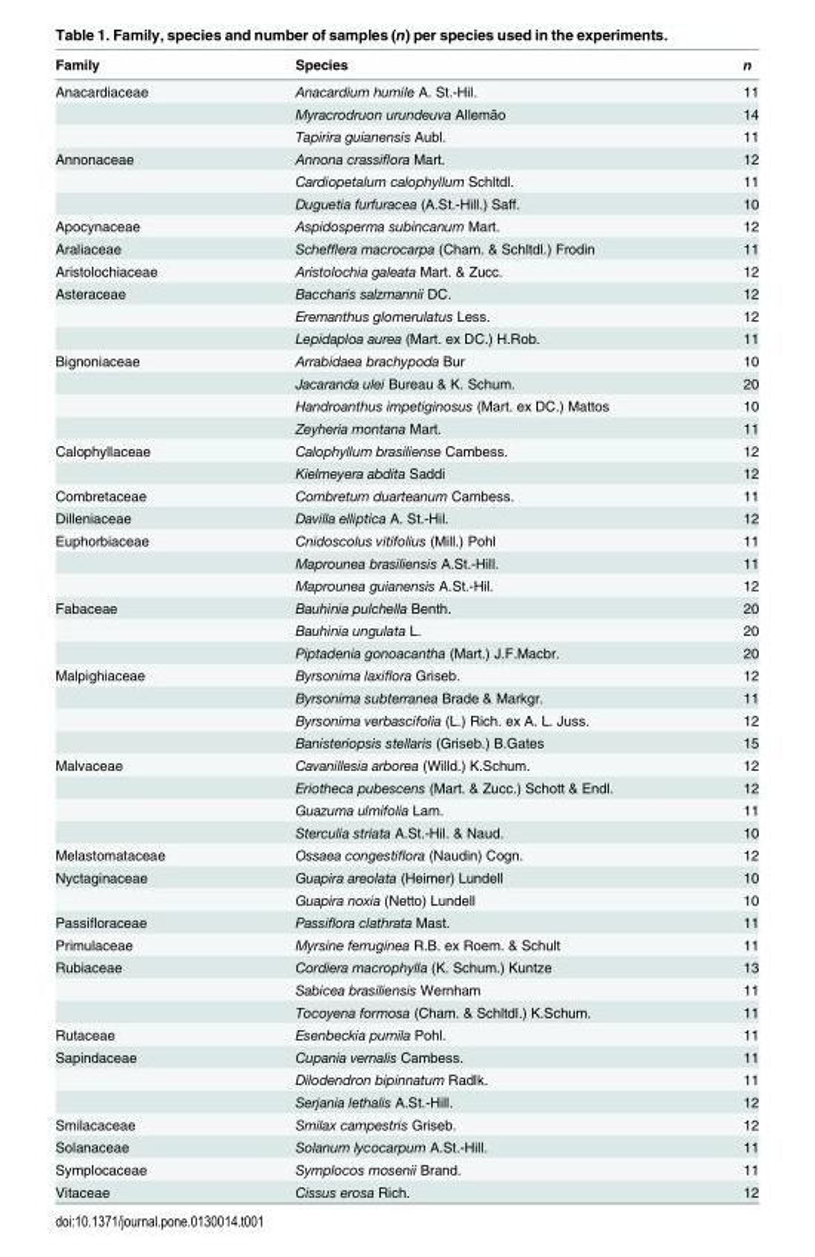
<table><thead><tr><td>Family</td><td>Species</td><td>n</td></tr></thead><tbody><tr><td rowspan="3">Anacardiaceae</td><td>Anacardium humile A. St.-Hil.</td><td>11</td></tr><tr><td>Myracrodruon urundeuva Allemão</td><td>14</td></tr><tr><td>Tapirira guianensis Aubl.</td><td>11</td></tr><tr><td rowspan="3">Annonaceae</td><td>Annona crassiflora Mart.</td><td>12</td></tr><tr><td>Cardiopetalum calophyllum Schltdl.</td><td>11</td></tr><tr><td>Duguetia furfuracea (A.St.-Hill.) Saff.</td><td>10</td></tr><tr><td>Apocynaceae</td><td>Aspidosperma subincanum Mart.</td><td>12</td></tr><tr><td>Araliaceae</td><td>Schefflera macrocarpa (Cham. &amp; Schltdl.) Frodin</td><td>11</td></tr><tr><td>Aristolochiaceae</td><td>Aristolochia galeata Mart. &amp; Zucc.</td><td>12</td></tr><tr><td rowspan="3">Asteraceae</td><td>Baccharis salzmannii DC.</td><td>12</td></tr><tr><td>Eremanthus glomerulatus Less.</td><td>12</td></tr><tr><td>Lepidaploa aurea (Mart. ex DC.) H.Rob.</td><td>11</td></tr><tr><td rowspan="4">Bignoniaceae</td><td>Arrabidaea brachypoda Bur</td><td>10</td></tr><tr><td>Jacaranda ulei Bureau &amp; K. Schum.</td><td>20</td></tr><tr><td>Handroanthus impetiginosus (Mart. ex DC.) Mattos</td><td>10</td></tr><tr><td>Zeyheria montana Mart.</td><td>11</td></tr><tr><td rowspan="2">Calophyllaceae</td><td>Calophyllum brasiliense Cambess.</td><td>12</td></tr><tr><td>Kielmeyera abdita Saddi</td><td>12</td></tr><tr><td>Combretaceae</td><td>Combretum duarteanum Cambess.</td><td>11</td></tr><tr><td>Dilleniaceae</td><td>Davilla elliptica A. St.-Hil.</td><td>12</td></tr><tr><td rowspan="3">Euphorbiaceae</td><td>Cnidoscolus vitifolius (Mill.) Pohl</td><td>11</td></tr><tr><td>Maprounea brasiliensis A.St.-Hill.</td><td>11</td></tr><tr><td>Maprounea guianensis A.St.-Hil.</td><td>12</td></tr><tr><td rowspan="3">Fabaceae</td><td>Bauhinia pulchella Benth.</td><td>20</td></tr><tr><td>Bauhinia ungulata L.</td><td>20</td></tr><tr><td>Piptadenia gonoacantha (Mart.) J.F.Macbr.</td><td>20</td></tr><tr><td rowspan="4">Malpighiaceae</td><td>Byrsonima laxiflora Griseb.</td><td>12</td></tr><tr><td>Byrsonima subterranea Brade &amp; Markgr.</td><td>11</td></tr><tr><td>Byrsonima verbascifolia (L.) Rich. ex A. L. Juss.</td><td>12</td></tr><tr><td>Banisteriopsis stellaris (Griseb.) B.Gates</td><td>15</td></tr><tr><td rowspan="4">Malvaceae</td><td>Cavanillesia arborea (Willd.) K.Schum.</td><td>12</td></tr><tr><td>Eriotheca pubescens (Mart. &amp; Zucc.) Schott &amp; Endl.</td><td>12</td></tr><tr><td>Guazuma ulmifolia Lam.</td><td>11</td></tr><tr><td>Sterculia striata A.St.-Hil. &amp; Naud.</td><td>10</td></tr><tr><td>Melastomataceae</td><td>Ossaea congestiflora (Naudin) Cogn.</td><td>12</td></tr><tr><td rowspan="2">Nyctaginaceae</td><td>Guapira areolata (Heimer) Lundell</td><td>10</td></tr><tr><td>Guapira noxia (Netto) Lundell</td><td>10</td></tr><tr><td>Passifloraceae</td><td>Passiflora clathrata Mast.</td><td>11</td></tr><tr><td>Primulaceae</td><td>Myrsine ferruginea R.B. ex Roem. &amp; Schult</td><td>11</td></tr><tr><td rowspan="3">Rubiaceae</td><td>Cordiera macrophylla (K. Schum.) Kuntze</td><td>13</td></tr><tr><td>Sabicea brasiliensis Wernham</td><td>11</td></tr><tr><td>Tocoyena formosa (Cham. &amp; Schltdl.) K.Schum.</td><td>11</td></tr><tr><td>Rutaceae</td><td>Esenbeckia pumila Pohl.</td><td>11</td></tr><tr><td rowspan="3">Sapindaceae</td><td>Cupania vernalis Cambess.</td><td>11</td></tr><tr><td>Dilodendron bipinnatum Radlk.</td><td>11</td></tr><tr><td>Serjania lethalis A.St.-Hill.</td><td>12</td></tr><tr><td>Smilacaceae</td><td>Smilax campestris Griseb.</td><td>12</td></tr><tr><td>Solanaceae</td><td>Solanum lycocarpum A.St.-Hill.</td><td>11</td></tr><tr><td>Symplocaceae</td><td>Symplocos mosenii Brand.</td><td>11</td></tr><tr><td>Vitaceae</td><td>Cissus erosa Rich.</td><td>12</td></tr></tbody></table>